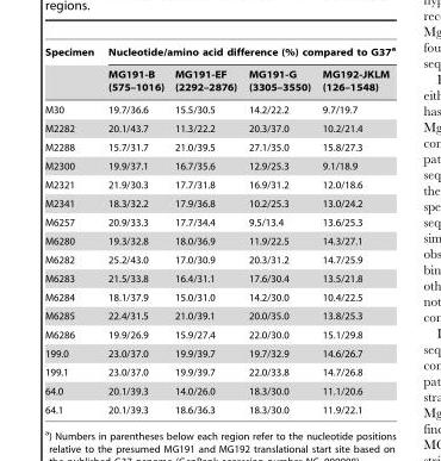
<table><thead><tr><td rowspan="2">Specimen</td><td colspan="4">Nucleotide/amino acid difference (%) compared to G37<sup>a</sup></td></tr><tr><td>MG191-B (575–1016)</td><td>MG191-EF (2292–2876)</td><td>MG191-G (3305–3550)</td><td>MG192-JKLM (126–1548)</td></tr></thead><tbody><tr><td>M30</td><td>19.7/36.6</td><td>15.5/30.5</td><td>14.2/22.2</td><td>9.7/19.7</td></tr><tr><td>M2282</td><td>20.1/43.7</td><td>11.3/22.2</td><td>20.3/37.0</td><td>10.2/21.4</td></tr><tr><td>M2288</td><td>15.7/31.7</td><td>21.0/39.5</td><td>27.1/35.0</td><td>15.8/27.3</td></tr><tr><td>M2300</td><td>19.9/37.1</td><td>16.7/35.6</td><td>12.9/25.3</td><td>9.1/18.9</td></tr><tr><td>M2321</td><td>21.9/30.3</td><td>17.7/31.8</td><td>16.9/31.2</td><td>12.0/18.6</td></tr><tr><td>M2341</td><td>18.3/32.2</td><td>17.9/36.8</td><td>10.2/25.3</td><td>13.0/24.2</td></tr><tr><td>M6257</td><td>20.9/33.3</td><td>17.7/34.4</td><td>9.5/13.4</td><td>13.6/25.3</td></tr><tr><td>M6280</td><td>19.3/32.8</td><td>18.0/36.9</td><td>11.9/22.5</td><td>14.3/27.1</td></tr><tr><td>M6282</td><td>25.2/43.0</td><td>17.0/30.9</td><td>20.3/31.2</td><td>14.7/25.9</td></tr><tr><td>M6283</td><td>21.5/33.8</td><td>16.4/31.1</td><td>17.6/30.4</td><td>13.5/21.8</td></tr><tr><td>M6284</td><td>18.1/37.9</td><td>15.0/31.0</td><td>14.2/30.0</td><td>10.4/22.5</td></tr><tr><td>M6285</td><td>22.4/31.5</td><td>21.0/39.1</td><td>20.0/35.0</td><td>13.8/25.3</td></tr><tr><td>M6286</td><td>19.9/26.9</td><td>15.9/27.4</td><td>22.0/30.0</td><td>15.1/29.8</td></tr><tr><td>199.0</td><td>23.0/37.0</td><td>19.9/39.7</td><td>19.7/32.9</td><td>14.6/26.7</td></tr><tr><td>199.1</td><td>23.0/37.0</td><td>19.9/39.7</td><td>22.0/33.8</td><td>14.7/26.8</td></tr><tr><td>64.0</td><td>20.1/39.3</td><td>14.0/26.0</td><td>18.3/30.0</td><td>11.1/20.6</td></tr><tr><td>64.1</td><td>20.1/39.3</td><td>18.6/36.3</td><td>18.3/30.0</td><td>11.9/22.1</td></tr></tbody></table>